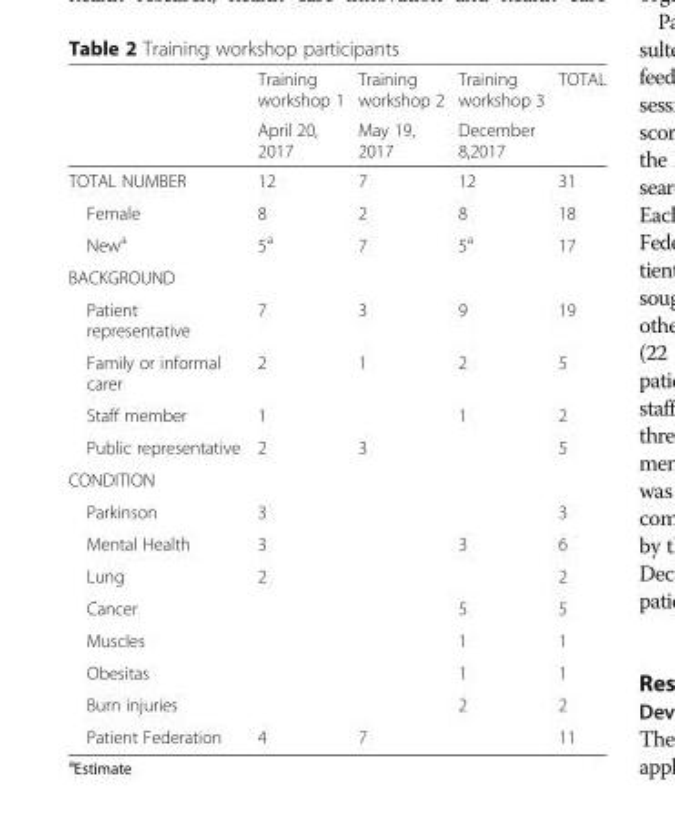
<table><thead><tr><td rowspan="2"></td><td rowspan="2">Training workshop 1 April 20, 2017</td><td rowspan="2">Training workshop 2 May 19, 2017</td><td rowspan="2">Training workshop 3 December 8,2017</td><td rowspan="2">TOTAL</td></tr><tr></tr></thead><tbody><tr><td>TOTAL NUMBER</td><td>12</td><td>7</td><td>12</td><td>31</td></tr><tr><td>Female</td><td>8</td><td>2</td><td>8</td><td>18</td></tr><tr><td>New<sup>a</sup></td><td>5<sup>a</sup></td><td>7</td><td>5<sup>a</sup></td><td>17</td></tr><tr><td colspan="5">BACKGROUND</td></tr><tr><td>Patient representative</td><td>7</td><td>3</td><td>9</td><td>19</td></tr><tr><td>Family or informal carer</td><td>2</td><td>1</td><td>2</td><td>5</td></tr><tr><td>Staff member</td><td>1</td><td></td><td>1</td><td>2</td></tr><tr><td>Public representative</td><td>2</td><td>3</td><td></td><td>5</td></tr><tr><td colspan="5">CONDITION</td></tr><tr><td>Parkinson</td><td>3</td><td></td><td></td><td>3</td></tr><tr><td>Mental Health</td><td>3</td><td></td><td>3</td><td>6</td></tr><tr><td>Lung</td><td>2</td><td></td><td></td><td>2</td></tr><tr><td>Cancer</td><td></td><td></td><td>5</td><td>5</td></tr><tr><td>Muscles</td><td></td><td></td><td>1</td><td>1</td></tr><tr><td>Obesitas</td><td></td><td></td><td>1</td><td>1</td></tr><tr><td>Burn injuries</td><td></td><td></td><td>2</td><td>2</td></tr><tr><td>Patient Federation</td><td>4</td><td>7</td><td></td><td>11</td></tr></tbody></table>